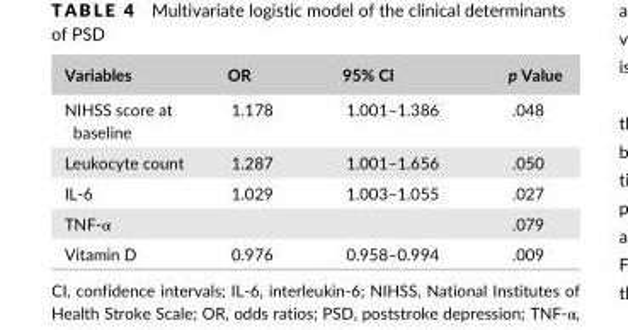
<table><thead><tr><td>Variables</td><td>OR</td><td>95% CI</td><td>p Value</td></tr></thead><tbody><tr><td>NIHSS score at baseline</td><td>1.178</td><td>1.001–1.386</td><td>.048</td></tr><tr><td>Leukocyte count</td><td>1.287</td><td>1.001–1.656</td><td>.050</td></tr><tr><td>IL- 6</td><td>1.029</td><td>1.003–1.055</td><td>.027</td></tr><tr><td>TNF- α</td><td></td><td></td><td>.079</td></tr><tr><td>Vitamin D</td><td>0.976</td><td>0.958–0.994</td><td>.009</td></tr></tbody></table>